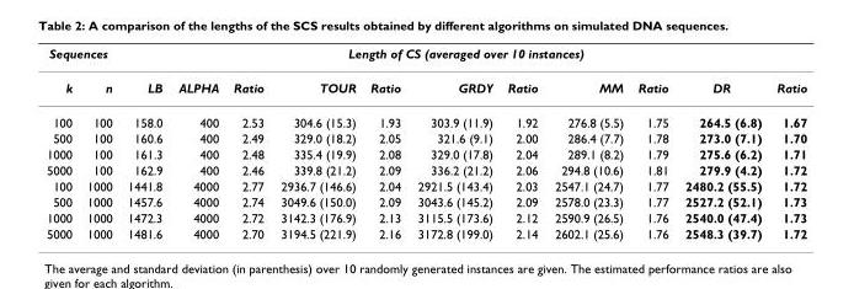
<table><thead><tr><td colspan="2">Sequences</td><td colspan="11">Length of CS (averaged over 10 instances)</td></tr><tr><td>k</td><td>n</td><td>LB</td><td>ALPHA</td><td>Ratio</td><td>TOUR</td><td>Ratio</td><td>GRDY</td><td>Ratio</td><td>MM</td><td>Ratio</td><td>DR</td><td>Ratio</td></tr></thead><tbody><tr><td>100</td><td>100</td><td>158.0</td><td>400</td><td>2.53</td><td>304.6 (15.3)</td><td>1.93</td><td>303.9 (11.9)</td><td>1.92</td><td>276.8 (5.5)</td><td>1.75</td><td>264.5 (6.8)</td><td>1.67</td></tr><tr><td>500</td><td>100</td><td>160.6</td><td>400</td><td>2.49</td><td>329.0 (18.2)</td><td>2.05</td><td>321.6 (9.1)</td><td>2.00</td><td>286.4 (7.7)</td><td>1.78</td><td>273.0 (7.1)</td><td>1.70</td></tr><tr><td>1000</td><td>100</td><td>161.3</td><td>400</td><td>2.48</td><td>335.4 (19.9)</td><td>2.08</td><td>329.0 (17.8)</td><td>2.04</td><td>289.1 (8.2)</td><td>1.79</td><td>275.6 (6.2)</td><td>1.71</td></tr><tr><td>5000</td><td>100</td><td>162.9</td><td>400</td><td>2.46</td><td>339.8 (21.2)</td><td>2.09</td><td>336.2 (21.2)</td><td>2.06</td><td>294.8 (10.6)</td><td>1.81</td><td>279.9 (4.2)</td><td>1.72</td></tr><tr><td>100</td><td>1000</td><td>1441.8</td><td>4000</td><td>2.77</td><td>2936.7 (146.6)</td><td>2.04</td><td>2921.5 (143.4)</td><td>2.03</td><td>2547.1 (24.7)</td><td>1.77</td><td>2480.2 (55.5)</td><td>1.72</td></tr><tr><td>500</td><td>1000</td><td>1457.6</td><td>4000</td><td>2.74</td><td>3049.6 (150.0)</td><td>2.09</td><td>3043.6 (145.2)</td><td>2.09</td><td>2578.0 (23.3)</td><td>1.77</td><td>2527.2 (52.1)</td><td>1.73</td></tr><tr><td>1000</td><td>1000</td><td>1472.3</td><td>4000</td><td>2.72</td><td>3142.3 (176.9)</td><td>2.13</td><td>3115.5 (173.6)</td><td>2.12</td><td>2590.9 (26.5)</td><td>1.76</td><td>2540.0 (47.4)</td><td>1.73</td></tr><tr><td>5000</td><td>1000</td><td>1481.6</td><td>4000</td><td>2.70</td><td>3194.5 (221.9)</td><td>2.16</td><td>3172.8 (199.0)</td><td>2.14</td><td>2602.1 (25.6)</td><td>1.76</td><td>2548.3 (39.7)</td><td>1.72</td></tr></tbody></table>